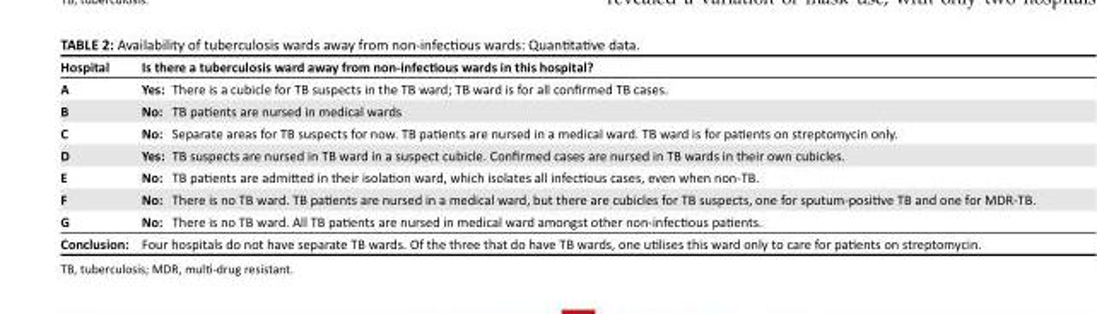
<table><thead><tr><td>Hospital</td><td>Is there a tuberculosis ward away from non-infectious wards in this hospital?</td></tr></thead><tbody><tr><td>A</td><td>Yes: There is a cubicle for TB suspects in the TB ward; TB ward is for all confirmed TB cases.</td></tr><tr><td>B</td><td>No: TB patients are nursed in medical wards</td></tr><tr><td>C</td><td>No: Separate areas for TB suspects for now. TB patients are nursed in a medical ward. TB ward is for patients on streptomycin only.</td></tr><tr><td>D</td><td>Yes: TB suspects are nursed in TB ward in a suspect cubicle. Confirmed cases are nursed in TB wards in their own cubicles.</td></tr><tr><td>E</td><td>No: TB patients are admitted in their isolation ward, which isolates all infectious cases, even when non-TB.</td></tr><tr><td>F</td><td>No: There is no TB ward. TB patients are nursed in a medical ward, but there are cubicles for TB suspects, one for sputum-positive TB and one for MDR-TB.</td></tr><tr><td>G</td><td>No: There is no TB ward. All TB patients are nursed in medical ward amongst other non-infectious patients.</td></tr><tr><td>Conclusion:</td><td>Four hospitals do not have separate TB wards. Of the three that do have TB wards, one utilises this ward only to care for patients on streptomycin.</td></tr></tbody></table>